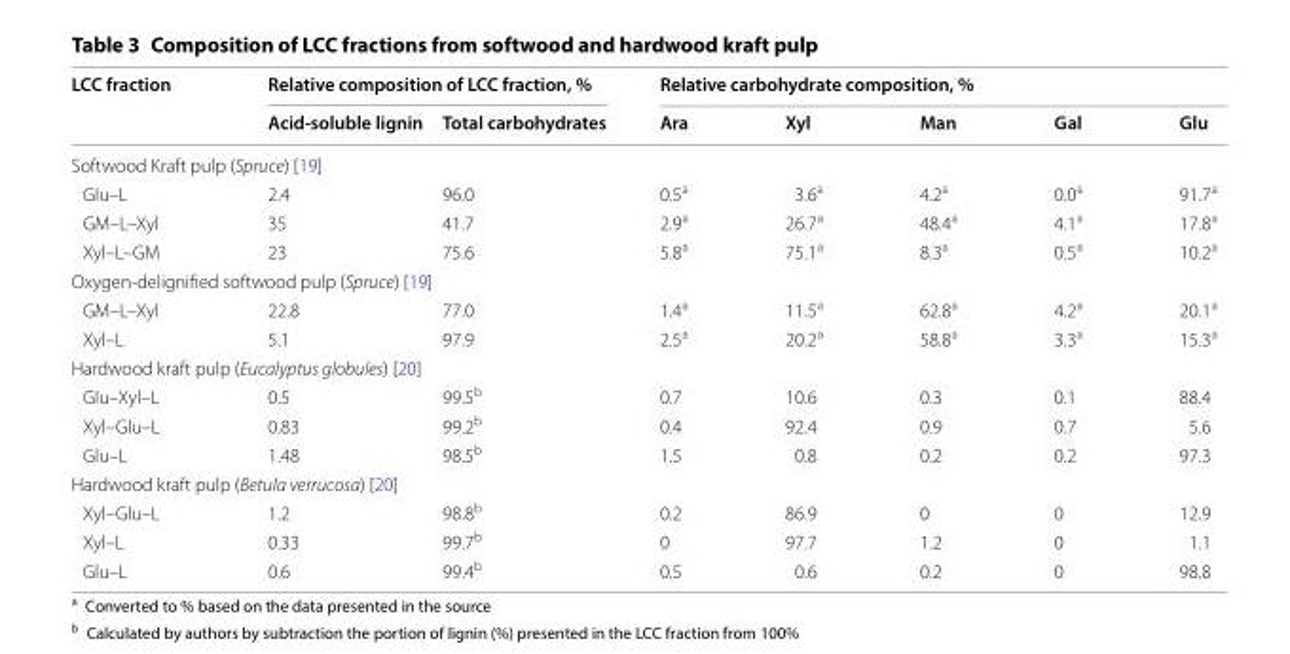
<table><thead><tr><td rowspan="2">LCC fraction</td><td colspan="2">Relative composition of LCC fraction, %</td><td colspan="5">Relative carbohydrate composition, %</td></tr><tr><td>Acid-soluble lignin</td><td>Total carbohydrates</td><td>Ara</td><td>Xyl</td><td>Man</td><td>Gal</td><td>Glu</td></tr></thead><tbody><tr><td colspan="8">Softwood Kraft pulp (Spruce) [19]</td></tr><tr><td>Glu–L</td><td>2.4</td><td>96.0</td><td>0.5<sup>a</sup></td><td>3.6<sup>a</sup></td><td>4.2<sup>a</sup></td><td>0.0<sup>a</sup></td><td>91.7<sup>a</sup></td></tr><tr><td>GM–L–Xyl</td><td>35</td><td>41.7</td><td>2.9<sup>a</sup></td><td>26.7<sup>a</sup></td><td>48.4<sup>a</sup></td><td>4.1<sup>a</sup></td><td>17.8<sup>a</sup></td></tr><tr><td>Xyl–L–GM</td><td>23</td><td>75.6</td><td>5.8<sup>a</sup></td><td>75.1<sup>a</sup></td><td>8.3<sup>a</sup></td><td>0.5<sup>a</sup></td><td>10.2<sup>a</sup></td></tr><tr><td colspan="8">Oxygen-delignified softwood pulp (Spruce) [19]</td></tr><tr><td>GM–L–Xyl</td><td>22.8</td><td>77.0</td><td>1.4<sup>a</sup></td><td>11.5<sup>a</sup></td><td>62.8<sup>a</sup></td><td>4.2<sup>a</sup></td><td>20.1<sup>a</sup></td></tr><tr><td>Xyl–L</td><td>5.1</td><td>97.9</td><td>2.5<sup>a</sup></td><td>20.2<sup>a</sup></td><td>58.8<sup>a</sup></td><td>3.3<sup>a</sup></td><td>15.3<sup>a</sup></td></tr><tr><td colspan="8">Hardwood kraft pulp (Eucalyptus globules) [20]</td></tr><tr><td>Glu–Xyl–L</td><td>0.5</td><td>99.5<sup>b</sup></td><td>0.7</td><td>10.6</td><td>0.3</td><td>0.1</td><td>88.4</td></tr><tr><td>Xyl–Glu–L</td><td>0.83</td><td>99.2<sup>b</sup></td><td>0.4</td><td>92.4</td><td>0.9</td><td>0.7</td><td>5.6</td></tr><tr><td>Glu–L</td><td>1.48</td><td>98.5<sup>b</sup></td><td>1.5</td><td>0.8</td><td>0.2</td><td>0.2</td><td>97.3</td></tr><tr><td colspan="8">Hardwood kraft pulp (Betula verrucosa) [20]</td></tr><tr><td>Xyl–Glu–L</td><td>1.2</td><td>98.8<sup>b</sup></td><td>0.2</td><td>86.9</td><td>0</td><td>0</td><td>12.9</td></tr><tr><td>Xyl–L</td><td>0.33</td><td>99.7<sup>b</sup></td><td>0</td><td>97.7</td><td>1.2</td><td>0</td><td>1.1</td></tr><tr><td>Glu–L</td><td>0.6</td><td>99.4<sup>b</sup></td><td>0.5</td><td>0.6</td><td>0.2</td><td>0</td><td>98.8</td></tr></tbody></table>